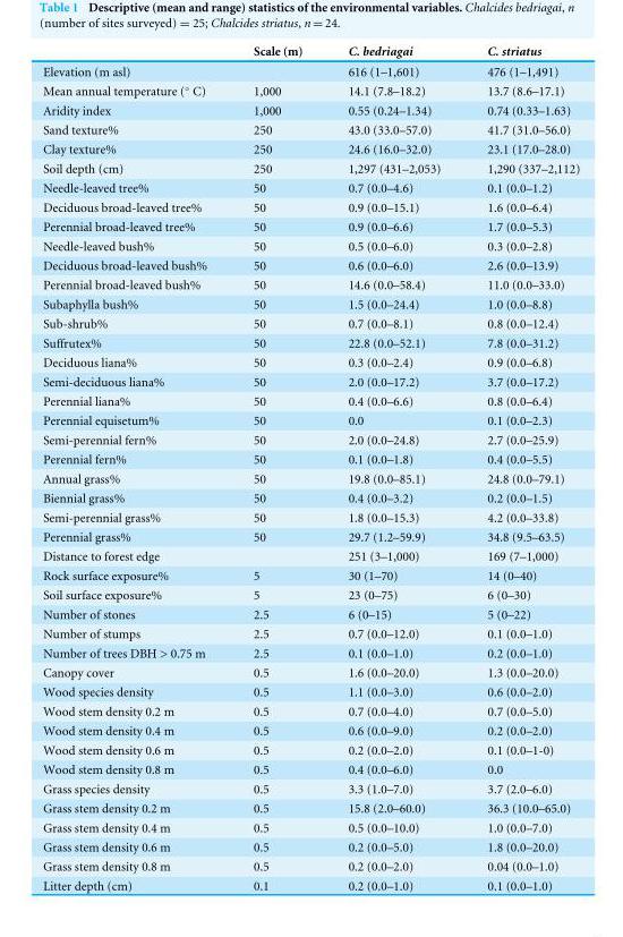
<table><thead><tr><td></td><td>Scale (m)</td><td>C. bedriagai</td><td>C. striatus</td></tr></thead><tbody><tr><td>Elevation (m asl)</td><td></td><td>616 (1–1,601)</td><td>476 (1–1,491)</td></tr><tr><td>Mean annual temperature (◦ C)</td><td>1,000</td><td>14.1 (7.8–18.2)</td><td>13.7 (8.6–17.1)</td></tr><tr><td>Aridity index</td><td>1,000</td><td>0.55 (0.24–1.34)</td><td>0.74 (0.33–1.63)</td></tr><tr><td>Sand texture%</td><td>250</td><td>43.0 (33.0–57.0)</td><td>41.7 (31.0–56.0)</td></tr><tr><td>Clay texture%</td><td>250</td><td>24.6 (16.0–32.0)</td><td>23.1 (17.0–28.0)</td></tr><tr><td>Soil depth (cm)</td><td>250</td><td>1,297 (431–2,053)</td><td>1,290 (337–2,112)</td></tr><tr><td>Needle-leaved tree%</td><td>50</td><td>0.7 (0.0–4.6)</td><td>0.1 (0.0–1.2)</td></tr><tr><td>Deciduous broad-leaved tree%</td><td>50</td><td>0.9 (0.0–15.1)</td><td>1.6 (0.0–6.4)</td></tr><tr><td>Perennial broad-leaved tree%</td><td>50</td><td>0.9 (0.0–6.6)</td><td>1.7 (0.0–5.3)</td></tr><tr><td>Needle-leaved bush%</td><td>50</td><td>0.5 (0.0–6.0)</td><td>0.3 (0.0–2.8)</td></tr><tr><td>Deciduous broad-leaved bush%</td><td>50</td><td>0.6 (0.0–6.0)</td><td>2.6 (0.0–13.9)</td></tr><tr><td>Perennial broad-leaved bush%</td><td>50</td><td>14.6 (0.0–58.4)</td><td>11.0 (0.0–33.0)</td></tr><tr><td>Subaphylla bush%</td><td>50</td><td>1.5 (0.0–24.4)</td><td>1.0 (0.0–8.8)</td></tr><tr><td>Sub-shrub%</td><td>50</td><td>0.7 (0.0–8.1)</td><td>0.8 (0.0–12.4)</td></tr><tr><td>Suffrutex%</td><td>50</td><td>22.8 (0.0–52.1)</td><td>7.8 (0.0–31.2)</td></tr><tr><td>Deciduous liana%</td><td>50</td><td>0.3 (0.0–2.4)</td><td>0.9 (0.0–6.8)</td></tr><tr><td>Semi-deciduous liana%</td><td>50</td><td>2.0 (0.0–17.2)</td><td>3.7 (0.0–17.2)</td></tr><tr><td>Perennial liana%</td><td>50</td><td>0.4 (0.0–6.6)</td><td>0.8 (0.0–6.4)</td></tr><tr><td>Perennial equisetum%</td><td>50</td><td>0.0</td><td>0.1 (0.0–2.3)</td></tr><tr><td>Semi-perennial fern%</td><td>50</td><td>2.0 (0.0–24.8)</td><td>2.7 (0.0–25.9)</td></tr><tr><td>Perennial fern%</td><td>50</td><td>0.1 (0.0–1.8)</td><td>0.4 (0.0–5.5)</td></tr><tr><td>Annual grass%</td><td>50</td><td>19.8 (0.0–85.1)</td><td>24.8 (0.0–79.1)</td></tr><tr><td>Biennial grass%</td><td>50</td><td>0.4 (0.0–3.2)</td><td>0.2 (0.0–1.5)</td></tr><tr><td>Semi-perennial grass%</td><td>50</td><td>1.8 (0.0–15.3)</td><td>4.2 (0.0–33.8)</td></tr><tr><td>Perennial grass%</td><td>50</td><td>29.7 (1.2–59.9)</td><td>34.8 (9.5–63.5)</td></tr><tr><td>Distance to forest edge</td><td></td><td>251 (3–1,000)</td><td>169 (7–1,000)</td></tr><tr><td>Rock surface exposure%</td><td>5</td><td>30 (1–70)</td><td>14 (0–40)</td></tr><tr><td>Soil surface exposure%</td><td>5</td><td>23 (0–75)</td><td>6 (0–30)</td></tr><tr><td>Number of stones</td><td>2.5</td><td>6 (0–15)</td><td>5 (0–22)</td></tr><tr><td>Number of stumps</td><td>2.5</td><td>0.7 (0.0–12.0)</td><td>0.1 (0.0–1.0)</td></tr><tr><td>Number of trees DBH &gt; 0.75 m</td><td>2.5</td><td>0.1 (0.0–1.0)</td><td>0.2 (0.0–1.0)</td></tr><tr><td>Canopy cover</td><td>0.5</td><td>1.6 (0.0–20.0)</td><td>1.3 (0.0–20.0)</td></tr><tr><td>Wood species density</td><td>0.5</td><td>1.1 (0.0–3.0)</td><td>0.6 (0.0–2.0)</td></tr><tr><td>Wood stem density 0.2 m</td><td>0.5</td><td>0.7 (0.0–4.0)</td><td>0.7 (0.0–5.0)</td></tr><tr><td>Wood stem density 0.4 m</td><td>0.5</td><td>0.6 (0.0–9.0)</td><td>0.2 (0.0–2.0)</td></tr><tr><td>Wood stem density 0.6 m</td><td>0.5</td><td>0.2 (0.0–2.0)</td><td>0.1 (0.0–1-0)</td></tr><tr><td>Wood stem density 0.8 m</td><td>0.5</td><td>0.4 (0.0–6.0)</td><td>0.0</td></tr><tr><td>Grass species density</td><td>0.5</td><td>3.3 (1.0–7.0)</td><td>3.7 (2.0–6.0)</td></tr><tr><td>Grass stem density 0.2 m</td><td>0.5</td><td>15.8 (2.0–60.0)</td><td>36.3 (10.0–65.0)</td></tr><tr><td>Grass stem density 0.4 m</td><td>0.5</td><td>0.5 (0.0–10.0)</td><td>1.0 (0.0–7.0)</td></tr><tr><td>Grass stem density 0.6 m</td><td>0.5</td><td>0.2 (0.0–5.0)</td><td>1.8 (0.0–20.0)</td></tr><tr><td>Grass stem density 0.8 m</td><td>0.5</td><td>0.2 (0.0–2.0)</td><td>0.04 (0.0–1.0)</td></tr><tr><td>Litter depth (cm)</td><td>0.1</td><td>0.2 (0.0–1.0)</td><td>0.1 (0.0–1.0)</td></tr></tbody></table>